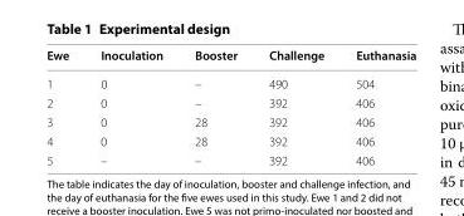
<table><thead><tr><td>Ewe</td><td>Inoculation</td><td>Booster</td><td>Challenge</td><td>Euthanasia</td></tr></thead><tbody><tr><td>1</td><td>0</td><td>–</td><td>490</td><td>504</td></tr><tr><td>2</td><td>0</td><td>–</td><td>392</td><td>406</td></tr><tr><td>3</td><td>0</td><td>28</td><td>392</td><td>406</td></tr><tr><td>4</td><td>0</td><td>28</td><td>392</td><td>406</td></tr><tr><td>5</td><td>–</td><td>–</td><td>392</td><td>406</td></tr></tbody></table>